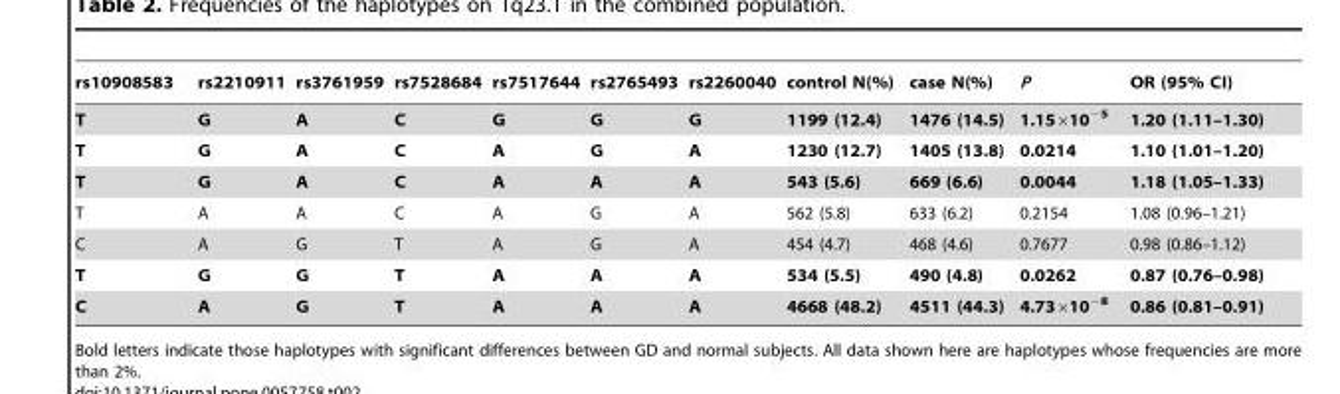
<table><thead><tr><td>rs10908583</td><td>rs2210911</td><td>rs3761959</td><td>rs7528684</td><td>rs7517644</td><td>rs2765493</td><td>rs2260040</td><td>control N(%)</td><td>case N(%)</td><td>P</td><td>OR (95% CI)</td></tr></thead><tbody><tr><td>T</td><td>G</td><td>A</td><td>C</td><td>G</td><td>G</td><td>G</td><td>1199 (12.4)</td><td>1476 (14.5)</td><td>1.15×10<sup>−5</sup></td><td>1.20 (1.11–1.30)</td></tr><tr><td>T</td><td>G</td><td>A</td><td>C</td><td>A</td><td>G</td><td>A</td><td>1230 (12.7)</td><td>1405 (13.8)</td><td>0.0214</td><td>1.10 (1.01–1.20)</td></tr><tr><td>T</td><td>G</td><td>A</td><td>C</td><td>A</td><td>A</td><td>A</td><td>543 (5.6)</td><td>669 (6.6)</td><td>0.0044</td><td>1.18 (1.05–1.33)</td></tr><tr><td>T</td><td>A</td><td>A</td><td>C</td><td>A</td><td>G</td><td>A</td><td>562 (5.8)</td><td>633 (6.2)</td><td>0.2154</td><td>1.08 (0.96–1.21)</td></tr><tr><td>C</td><td>A</td><td>G</td><td>T</td><td>A</td><td>G</td><td>A</td><td>454 (4.7)</td><td>468 (4.6)</td><td>0.7677</td><td>0.98 (0.86–1.12)</td></tr><tr><td>T</td><td>G</td><td>G</td><td>T</td><td>A</td><td>A</td><td>A</td><td>534 (5.5)</td><td>490 (4.8)</td><td>0.0262</td><td>0.87 (0.76–0.98)</td></tr><tr><td>C</td><td>A</td><td>G</td><td>T</td><td>A</td><td>A</td><td>A</td><td>4668 (48.2)</td><td>4511 (44.3)</td><td>4.73×10<sup>−8</sup></td><td>0.86 (0.81–0.91)</td></tr></tbody></table>